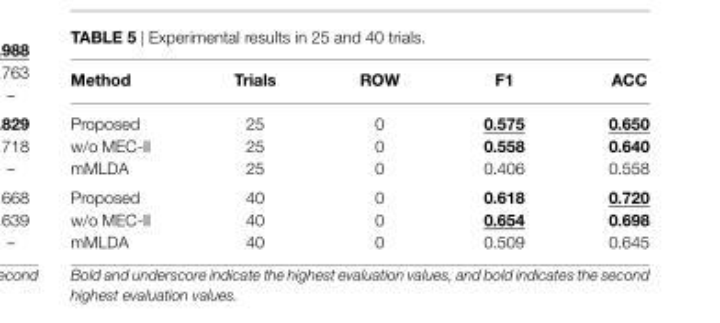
<table><thead><tr><td>Method</td><td>Trials</td><td>ROW</td><td>F1</td><td>ACC</td></tr></thead><tbody><tr><td>Proposed</td><td>25</td><td>0</td><td>0.575</td><td>0.650</td></tr><tr><td>w/o MEC-II</td><td>25</td><td>0</td><td>0.558</td><td>0.640</td></tr><tr><td>mMLDA</td><td>25</td><td>0</td><td>0.406</td><td>0.558</td></tr><tr><td>Proposed</td><td>40</td><td>0</td><td>0.618</td><td>0.720</td></tr><tr><td>w/o MEC-II</td><td>40</td><td>0</td><td>0.654</td><td>0.698</td></tr><tr><td>mMLDA</td><td>40</td><td>0</td><td>0.509</td><td>0.645</td></tr></tbody></table>